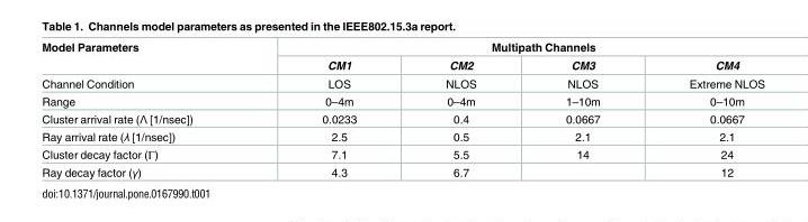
<table><thead><tr><td rowspan="2">Model Parameters</td><td colspan="4">Multipath Channels</td></tr><tr><td>CM1</td><td>CM2</td><td>CM3</td><td>CM4</td></tr></thead><tbody><tr><td>Channel Condition</td><td>LOS</td><td>NLOS</td><td>NLOS</td><td>Extreme NLOS</td></tr><tr><td>Range</td><td>0–4m</td><td>0–4m</td><td>1–10m</td><td>0–10m</td></tr><tr><td>Cluster arrival rate (Λ [1/nsec])</td><td>0.0233</td><td>0.4</td><td>0.0667</td><td>0.0667</td></tr><tr><td>Ray arrival rate (λ [1/nsec])</td><td>2.5</td><td>0.5</td><td>2.1</td><td>2.1</td></tr><tr><td>Cluster decay factor (Γ)</td><td>7.1</td><td>5.5</td><td>14</td><td>24</td></tr><tr><td>Ray decay factor (γ)</td><td>4.3</td><td>6.7</td><td></td><td>12</td></tr></tbody></table>